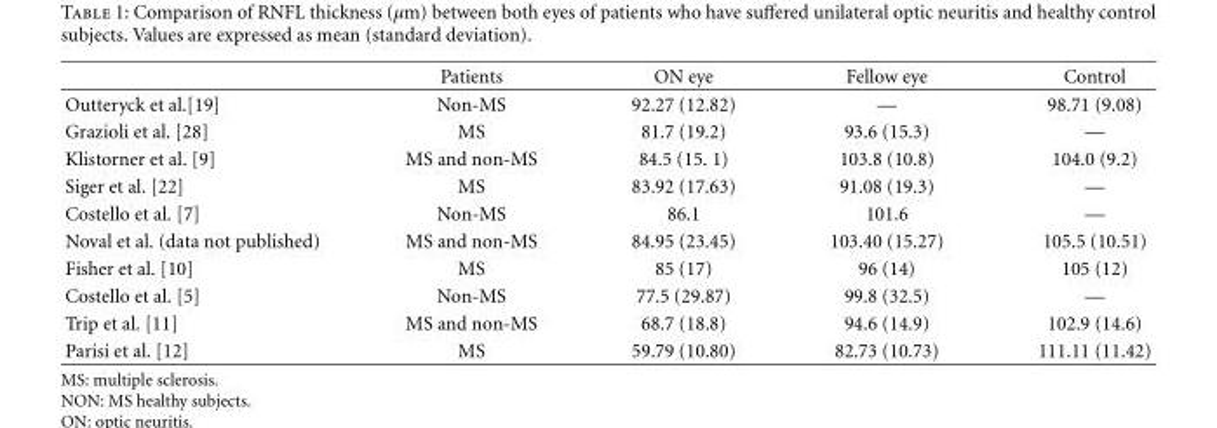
<table><thead><tr><td></td><td>Patients</td><td>ON eye</td><td>Fellow eye</td><td>Control</td></tr></thead><tbody><tr><td>Outteryck et al.[19]</td><td>Non-MS</td><td>92.27 (12.82)</td><td>—</td><td>98.71 (9.08)</td></tr><tr><td>Grazioli et al. [28]</td><td>MS</td><td>81.7 (19.2)</td><td>93.6 (15.3)</td><td>—</td></tr><tr><td>Klistorner et al. [9]</td><td>MS and non-MS</td><td>84.5 (15. 1)</td><td>103.8 (10.8)</td><td>104.0 (9.2)</td></tr><tr><td>Siger et al. [22]</td><td>MS</td><td>83.92 (17.63)</td><td>91.08 (19.3)</td><td>—</td></tr><tr><td>Costello et al. [7]</td><td>Non-MS</td><td>86.1</td><td>101.6</td><td>—</td></tr><tr><td>Noval et al. (data not published)</td><td>MS and non-MS</td><td>84.95 (23.45)</td><td>103.40 (15.27)</td><td>105.5 (10.51)</td></tr><tr><td>Fisher et al. [10]</td><td>MS</td><td>85 (17)</td><td>96 (14)</td><td>105 (12)</td></tr><tr><td>Costello et al. [5]</td><td>Non-MS</td><td>77.5 (29.87)</td><td>99.8 (32.5)</td><td>—</td></tr><tr><td>Trip et al. [11]</td><td>MS and non-MS</td><td>68.7 (18.8)</td><td>94.6 (14.9)</td><td>102.9 (14.6)</td></tr><tr><td>Parisi et al. [12]</td><td>MS</td><td>59.79 (10.80)</td><td>82.73 (10.73)</td><td>111.11 (11.42)</td></tr></tbody></table>